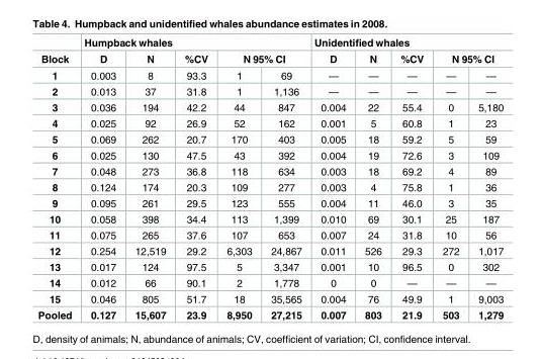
<table><thead><tr><td rowspan="3">Block 1</td><td colspan="5">Humpback whales</td><td colspan="5">Unidentified whales</td></tr><tr><td rowspan="2">D 0.003</td><td rowspan="2">N 8</td><td rowspan="2">%CV 93.3</td><td colspan="2">N 95% CI</td><td rowspan="2">D —</td><td rowspan="2">N —</td><td rowspan="2">%CV —</td><td colspan="2">N 95% CI</td></tr><tr><td>1</td><td>69</td><td>—</td><td>—</td></tr></thead><tbody><tr><td>2</td><td>0.013</td><td>37</td><td>31.8</td><td>1</td><td>1,136</td><td>—</td><td>—</td><td>—</td><td>—</td><td>—</td></tr><tr><td>3</td><td>0.036</td><td>194</td><td>42.2</td><td>44</td><td>847</td><td>0.004</td><td>22</td><td>55.4</td><td>0</td><td>5,180</td></tr><tr><td>4</td><td>0.025</td><td>92</td><td>26.9</td><td>52</td><td>162</td><td>0.001</td><td>5</td><td>60.8</td><td>1</td><td>23</td></tr><tr><td>5</td><td>0.069</td><td>262</td><td>20.7</td><td>170</td><td>403</td><td>0.005</td><td>18</td><td>59.2</td><td>5</td><td>59</td></tr><tr><td>6</td><td>0.025</td><td>130</td><td>47.5</td><td>43</td><td>392</td><td>0.004</td><td>19</td><td>72.6</td><td>3</td><td>109</td></tr><tr><td>7</td><td>0.048</td><td>273</td><td>36.8</td><td>118</td><td>634</td><td>0.003</td><td>18</td><td>69.2</td><td>4</td><td>89</td></tr><tr><td>8</td><td>0.124</td><td>174</td><td>20.3</td><td>109</td><td>277</td><td>0.003</td><td>4</td><td>75.8</td><td>1</td><td>36</td></tr><tr><td>9</td><td>0.095</td><td>261</td><td>29.5</td><td>123</td><td>555</td><td>0.004</td><td>11</td><td>46.0</td><td>3</td><td>35</td></tr><tr><td>10</td><td>0.058</td><td>398</td><td>34.4</td><td>113</td><td>1,399</td><td>0.010</td><td>69</td><td>30.1</td><td>25</td><td>187</td></tr><tr><td>11</td><td>0.075</td><td>265</td><td>37.6</td><td>107</td><td>653</td><td>0.007</td><td>24</td><td>31.8</td><td>10</td><td>56</td></tr><tr><td>12</td><td>0.254</td><td>12,519</td><td>29.2</td><td>6,303</td><td>24,867</td><td>0.011</td><td>526</td><td>29.3</td><td>272</td><td>1,017</td></tr><tr><td>13</td><td>0.017</td><td>124</td><td>97.5</td><td>5</td><td>3,347</td><td>0.001</td><td>10</td><td>96.5</td><td>0</td><td>302</td></tr><tr><td>14</td><td>0.012</td><td>66</td><td>90.1</td><td>2</td><td>1,778</td><td>0</td><td>0</td><td>—</td><td>—</td><td>—</td></tr><tr><td>15</td><td>0.046</td><td>805</td><td>51.7</td><td>18</td><td>35,565</td><td>0.004</td><td>76</td><td>49.9</td><td>1</td><td>9,003</td></tr><tr><td>Pooled</td><td>0.127</td><td>15,607</td><td>23.9</td><td>8,950</td><td>27,215</td><td>0.007</td><td>803</td><td>21.9</td><td>503</td><td>1,279</td></tr></tbody></table>